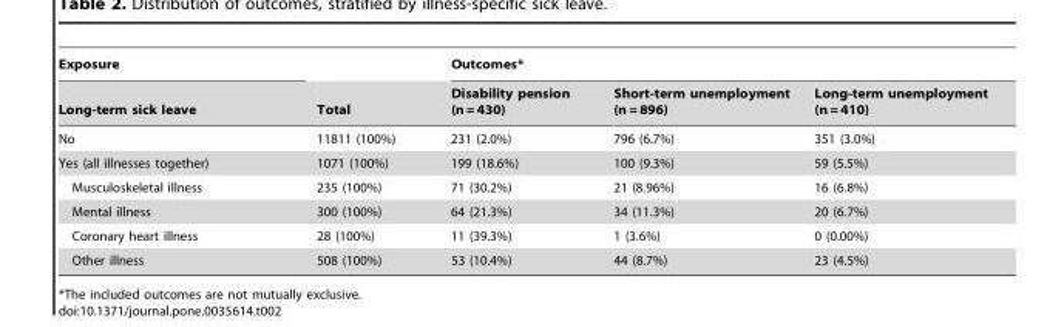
<table><thead><tr><td rowspan="2">Exposure Long-term sick leave</td><td rowspan="2">Total</td><td colspan="3">Outcomes*</td></tr><tr><td>Disability pension (n = 430)</td><td>Short-term unemployment (n = 896)</td><td>Long-term unemployment (n = 410)</td></tr></thead><tbody><tr><td>No</td><td>11811 (100%)</td><td>231 (2.0%)</td><td>796 (6.7%)</td><td>351 (3.0%)</td></tr><tr><td>Yes (all illnesses together)</td><td>1071 (100%)</td><td>199 (18.6%)</td><td>100 (9.3%)</td><td>59 (5.5%)</td></tr><tr><td>Musculoskeletal illness</td><td>235 (100%)</td><td>71 (30.2%)</td><td>21 (8.96%)</td><td>16 (6.8%)</td></tr><tr><td>Mental illness</td><td>300 (100%)</td><td>64 (21.3%)</td><td>34 (11.3%)</td><td>20 (6.7%)</td></tr><tr><td>Coronary heart illness</td><td>28 (100%)</td><td>11 (39.3%)</td><td>1 (3.6%)</td><td>0 (0.00%)</td></tr><tr><td>Other illness</td><td>508 (100%)</td><td>53 (10.4%)</td><td>44 (8.7%)</td><td>23 (4.5%)</td></tr></tbody></table>